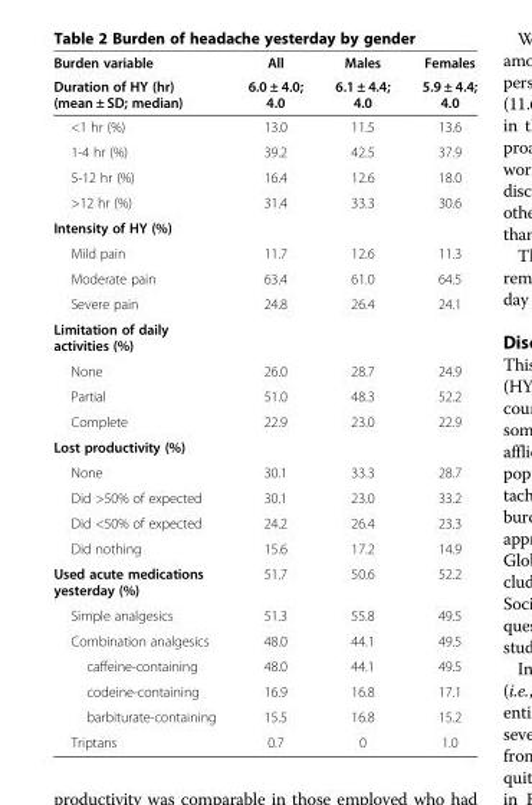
<table><thead><tr><td rowspan="2">Burden variable Duration of HY (hr) (mean ± SD; median)</td><td rowspan="2">All 6.0 ± 4.0; 4.0</td><td rowspan="2">Males 6.1 ± 4.4; 4.0</td><td rowspan="2">Females 5.9 ± 4.4; 4.0</td></tr><tr></tr></thead><tbody><tr><td>&lt;1 hr (%)</td><td>13.0</td><td>11.5</td><td>13.6</td></tr><tr><td>1-4 hr (%)</td><td>39.2</td><td>42.5</td><td>37.9</td></tr><tr><td>5-12 hr (%)</td><td>16.4</td><td>12.6</td><td>18.0</td></tr><tr><td>&gt;12 hr (%)</td><td>31.4</td><td>33.3</td><td>30.6</td></tr><tr><td colspan="4">Intensity of HY (%)</td></tr><tr><td>Mild pain</td><td>11.7</td><td>12.6</td><td>11.3</td></tr><tr><td>Moderate pain</td><td>63.4</td><td>61.0</td><td>64.5</td></tr><tr><td>Severe pain</td><td>24.8</td><td>26.4</td><td>24.1</td></tr><tr><td colspan="4">Limitation of daily activities (%)</td></tr><tr><td>None</td><td>26.0</td><td>28.7</td><td>24.9</td></tr><tr><td>Partial</td><td>51.0</td><td>48.3</td><td>52.2</td></tr><tr><td>Complete</td><td>22.9</td><td>23.0</td><td>22.9</td></tr><tr><td colspan="4">Lost productivity (%)</td></tr><tr><td>None</td><td>30.1</td><td>33.3</td><td>28.7</td></tr><tr><td>Did &gt;50% of expected</td><td>30.1</td><td>23.0</td><td>33.2</td></tr><tr><td>Did &lt;50% of expected</td><td>24.2</td><td>26.4</td><td>23.3</td></tr><tr><td>Did nothing</td><td>15.6</td><td>17.2</td><td>14.9</td></tr><tr><td>Used acute medications yesterday (%)</td><td>51.7</td><td>50.6</td><td>52.2</td></tr><tr><td>Simple analgesics</td><td>51.3</td><td>55.8</td><td>49.5</td></tr><tr><td>Combination analgesics</td><td>48.0</td><td>44.1</td><td>49.5</td></tr><tr><td>caffeine-containing</td><td>48.0</td><td>44.1</td><td>49.5</td></tr><tr><td>codeine-containing</td><td>16.9</td><td>16.8</td><td>17.1</td></tr><tr><td>barbiturate-containing</td><td>15.5</td><td>16.8</td><td>15.2</td></tr><tr><td>Triptans</td><td>0.7</td><td>0</td><td>1.0</td></tr></tbody></table>